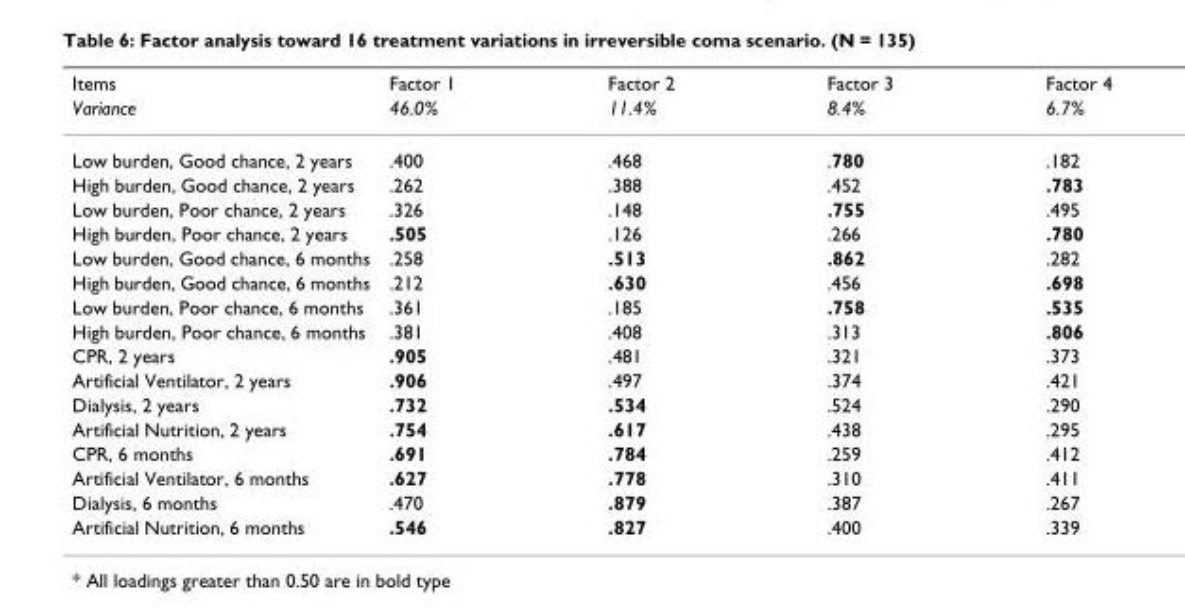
<table><thead><tr><td rowspan="2">Items Variance</td><td rowspan="2">Factor 1 46.0%</td><td rowspan="2">Factor 2 11.4%</td><td rowspan="2">Factor 3 8.4%</td><td rowspan="2">Factor 4 6.7%</td></tr><tr></tr></thead><tbody><tr><td>Low burden, Good chance, 2 years</td><td>.400</td><td>.468</td><td>.780</td><td>.182</td></tr><tr><td>High burden, Good chance, 2 years</td><td>.262</td><td>.388</td><td>.452</td><td>.783</td></tr><tr><td>Low burden, Poor chance, 2 years</td><td>.326</td><td>.148</td><td>.755</td><td>.495</td></tr><tr><td>High burden, Poor chance, 2 years</td><td>.505</td><td>.126</td><td>.266</td><td>.780</td></tr><tr><td>Low burden, Good chance, 6 months</td><td>.258</td><td>.513</td><td>.862</td><td>.282</td></tr><tr><td>High burden, Good chance, 6 months</td><td>.212</td><td>.630</td><td>.456</td><td>.698</td></tr><tr><td>Low burden, Poor chance, 6 months</td><td>.361</td><td>.185</td><td>.758</td><td>.535</td></tr><tr><td>High burden, Poor chance, 6 months</td><td>.381</td><td>.408</td><td>.313</td><td>.806</td></tr><tr><td>CPR, 2 years</td><td>.905</td><td>.481</td><td>.321</td><td>.373</td></tr><tr><td>Artificial Ventilator, 2 years</td><td>.906</td><td>.497</td><td>.374</td><td>.421</td></tr><tr><td>Dialysis, 2 years</td><td>.732</td><td>.534</td><td>.524</td><td>.290</td></tr><tr><td>Artificial Nutrition, 2 years</td><td>.754</td><td>.617</td><td>.438</td><td>.295</td></tr><tr><td>CPR, 6 months</td><td>.691</td><td>.784</td><td>.259</td><td>.412</td></tr><tr><td>Artificial Ventilator, 6 months</td><td>.627</td><td>.778</td><td>.310</td><td>.411</td></tr><tr><td>Dialysis, 6 months</td><td>.470</td><td>.879</td><td>.387</td><td>.267</td></tr><tr><td>Artificial Nutrition, 6 months</td><td>.546</td><td>.827</td><td>.400</td><td>.339</td></tr></tbody></table>